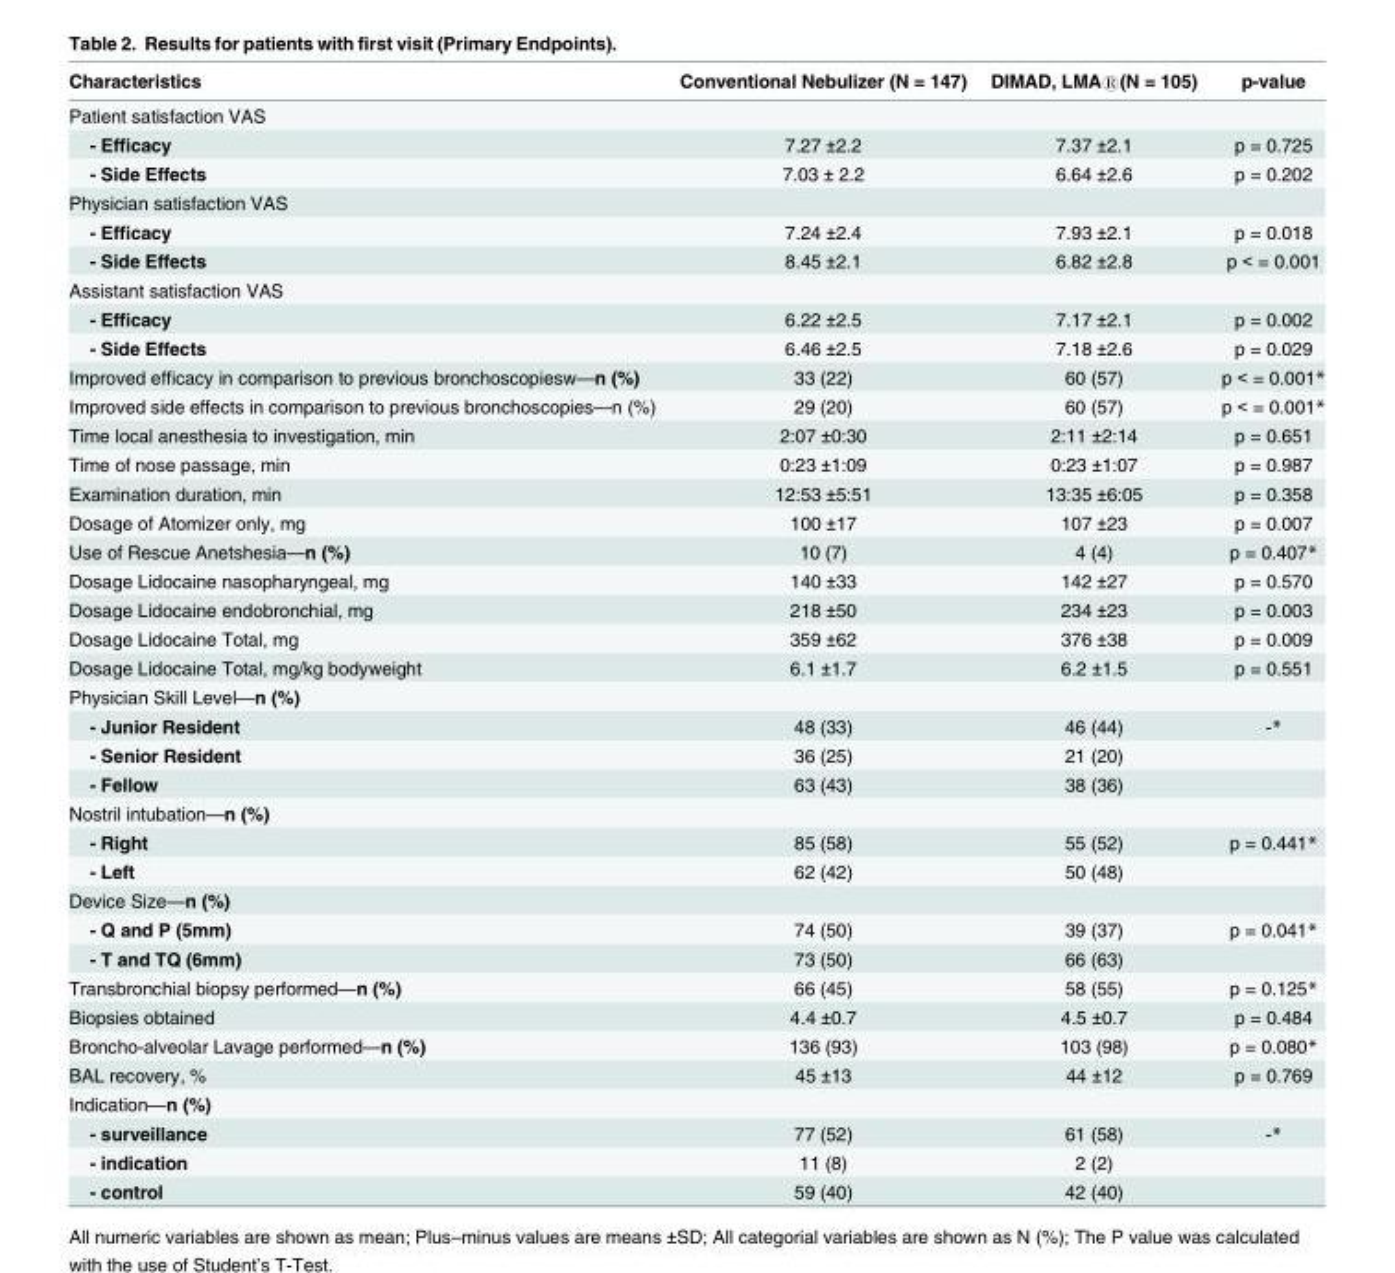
<table><thead><tr><td>Characteristics</td><td>Conventional Nebulizer (N = 147)</td><td>DIMAD, LMA®(N = 105)</td><td>p-value</td></tr></thead><tbody><tr><td colspan="4">Patient satisfaction VAS</td></tr><tr><td>- Efficacy</td><td>7.27 ±2.2</td><td>7.37 ±2.1</td><td>p = 0.725</td></tr><tr><td>- Side Effects</td><td>7.03 ± 2.2</td><td>6.64 ±2.6</td><td>p = 0.202</td></tr><tr><td colspan="4">Physician satisfaction VAS</td></tr><tr><td>- Efficacy</td><td>7.24 ±2.4</td><td>7.93 ±2.1</td><td>p = 0.018</td></tr><tr><td>- Side Effects</td><td>8.45 ±2.1</td><td>6.82 ±2.8</td><td>p &lt; = 0.001</td></tr><tr><td colspan="4">Assistant satisfaction VAS</td></tr><tr><td>- Efficacy</td><td>6.22 ±2.5</td><td>7.17 ±2.1</td><td>p = 0.002</td></tr><tr><td>- Side Effects</td><td>6.46 ±2.5</td><td>7.18 ±2.6</td><td>p = 0.029</td></tr><tr><td>Improved efficacy in comparison to previous bronchoscopiesw—n (%)</td><td>33 (22)</td><td>60 (57)</td><td>p &lt; = 0.001*</td></tr><tr><td>Improved side effects in comparison to previous bronchoscopies—n (%)</td><td>29 (20)</td><td>60 (57)</td><td>p &lt; = 0.001*</td></tr><tr><td>Time local anesthesia to investigation, min</td><td>2:07 ±0:30</td><td>2:11 ±2:14</td><td>p = 0.651</td></tr><tr><td>Time of nose passage, min</td><td>0:23 ±1:09</td><td>0:23 ±1:07</td><td>p = 0.987</td></tr><tr><td>Examination duration, min</td><td>12:53 ±5:51</td><td>13:35 ±6:05</td><td>p = 0.358</td></tr><tr><td>Dosage of Atomizer only, mg</td><td>100 ±17</td><td>107 ±23</td><td>p = 0.007</td></tr><tr><td>Use of Rescue Anetshesia—n (%)</td><td>10 (7)</td><td>4 (4)</td><td>p = 0.407*</td></tr><tr><td>Dosage Lidocaine nasopharyngeal, mg</td><td>140 ±33</td><td>142 ±27</td><td>p = 0.570</td></tr><tr><td>Dosage Lidocaine endobronchial, mg</td><td>218 ±50</td><td>234 ±23</td><td>p = 0.003</td></tr><tr><td>Dosage Lidocaine Total, mg</td><td>359 ±62</td><td>376 ±38</td><td>p = 0.009</td></tr><tr><td>Dosage Lidocaine Total, mg/kg bodyweight</td><td>6.1 ±1.7</td><td>6.2 ±1.5</td><td>p = 0.551</td></tr><tr><td colspan="4">Physician Skill Level—n (%)</td></tr><tr><td>- Junior Resident</td><td>48 (33)</td><td>46 (44)</td><td>-*</td></tr><tr><td>- Senior Resident</td><td>36 (25)</td><td>21 (20)</td><td></td></tr><tr><td>- Fellow</td><td>63 (43)</td><td>38 (36)</td><td></td></tr><tr><td colspan="4">Nostril intubation—n (%)</td></tr><tr><td>- Right</td><td>85 (58)</td><td>55 (52)</td><td>p = 0.441*</td></tr><tr><td>- Left</td><td>62 (42)</td><td>50 (48)</td><td></td></tr><tr><td colspan="4">Device Size—n (%)</td></tr><tr><td>- Q and P (5mm)</td><td>74 (50)</td><td>39 (37)</td><td>p = 0.041*</td></tr><tr><td>- T and TQ (6mm)</td><td>73 (50)</td><td>66 (63)</td><td></td></tr><tr><td>Transbronchial biopsy performed—n (%)</td><td>66 (45)</td><td>58 (55)</td><td>p = 0.125*</td></tr><tr><td>Biopsies obtained</td><td>4.4 ±0.7</td><td>4.5 ±0.7</td><td>p = 0.484</td></tr><tr><td>Broncho-alveolar Lavage performed—n (%)</td><td>136 (93)</td><td>103 (98)</td><td>p = 0.080*</td></tr><tr><td>BAL recovery, %</td><td>45 ±13</td><td>44 ±12</td><td>p = 0.769</td></tr><tr><td colspan="4">Indication—n (%)</td></tr><tr><td>- surveillance</td><td>77 (52)</td><td>61 (58)</td><td>-*</td></tr><tr><td>- indication</td><td>11 (8)</td><td>2 (2)</td><td></td></tr><tr><td>- control</td><td>59 (40)</td><td>42 (40)</td><td></td></tr></tbody></table>